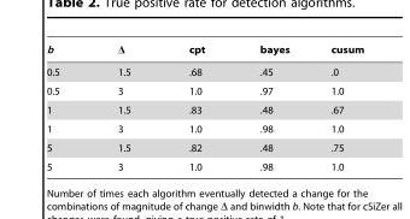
<table><thead><tr><td>b</td><td>Δ</td><td>cpt</td><td>bayes</td><td>cusum</td></tr></thead><tbody><tr><td>0.5</td><td>1.5</td><td>.68</td><td>.45</td><td>.0</td></tr><tr><td>0.5</td><td>3</td><td>1.0</td><td>.97</td><td>1.0</td></tr><tr><td>1</td><td>1.5</td><td>.83</td><td>.48</td><td>.67</td></tr><tr><td>1</td><td>3</td><td>1.0</td><td>.98</td><td>1.0</td></tr><tr><td>5</td><td>1.5</td><td>.82</td><td>.48</td><td>.75</td></tr><tr><td>5</td><td>3</td><td>1.0</td><td>.98</td><td>1.0</td></tr></tbody></table>